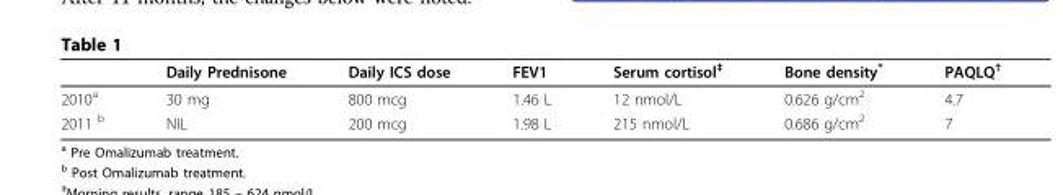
<table><thead><tr><td></td><td>Daily Prednisone</td><td>Daily ICS dose</td><td>FEV1</td><td>Serum cortisol<sup>‡</sup></td><td>Bone density*</td><td>PAQLQ<sup>†</sup></td></tr></thead><tbody><tr><td>2010<sup>a</sup></td><td>30 mg</td><td>800 mcg</td><td>1.46 L</td><td>12 nmol/L</td><td>0.626 g/cm<sup>2</sup></td><td>4.7</td></tr><tr><td>2011 <sup>b</sup></td><td>NIL</td><td>200 mcg</td><td>1.98 L</td><td>215 nmol/L</td><td>0.686 g/cm<sup>2</sup></td><td>7</td></tr></tbody></table>